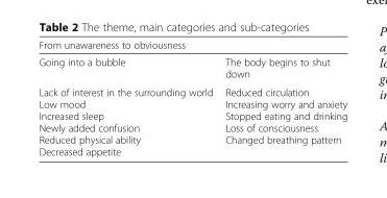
<table><thead><tr><td colspan="2">From unawareness to obviousness</td></tr><tr><td>Going into a bubble</td><td>The body begins to shut down</td></tr></thead><tbody><tr><td>Lack of interest in the surrounding world Low mood Increased sleep Newly added confusion Reduced physical ability Decreased appetite</td><td>Reduced circulation Increasing worry and anxiety Stopped eating and drinking Loss of consciousness Changed breathing pattern</td></tr></tbody></table>